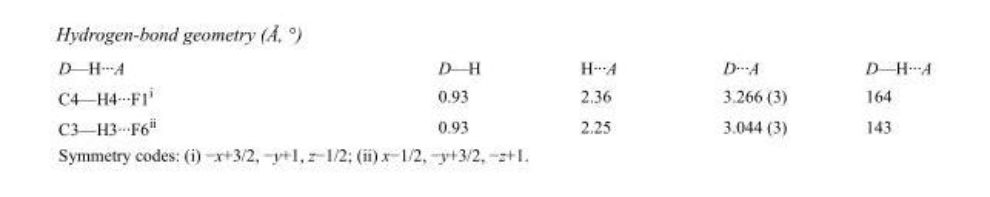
<table><tbody><tr><td>D—H···A</td><td>D—H</td><td>H···A</td><td>D···A</td><td>D—H···A</td></tr><tr><td>C4—H4···F1<sup>i</sup></td><td>0.93</td><td>2.36</td><td>3.266 (3)</td><td>164</td></tr><tr><td>C3—H3···F6<sup>ii</sup></td><td>0.93</td><td>2.25</td><td>3.044 (3)</td><td>143</td></tr></tbody></table>